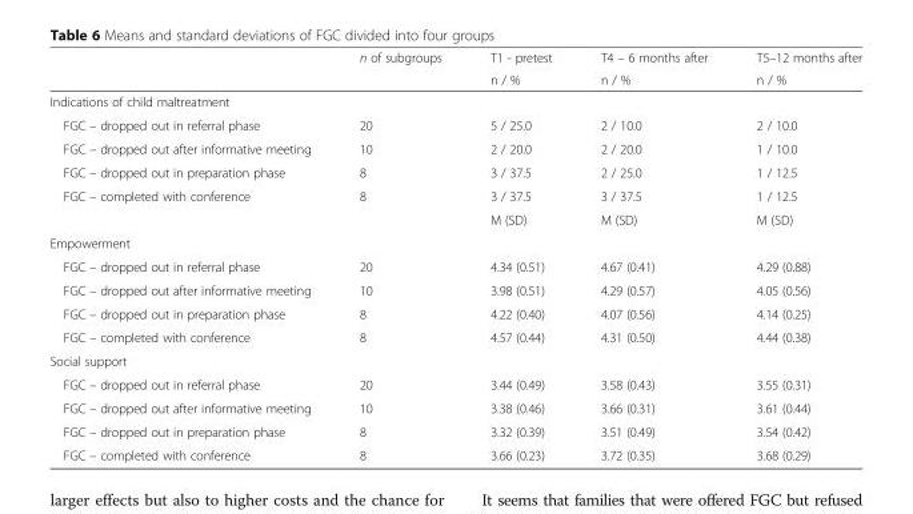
<table><thead><tr><td rowspan="2"></td><td rowspan="2">n of subgroups</td><td rowspan="2">T1 - pretest n / %</td><td rowspan="2">T4 – 6 months after n / %</td><td rowspan="2">T5–12 months after n / %</td></tr><tr></tr></thead><tbody><tr><td colspan="5">Indications of child maltreatment</td></tr><tr><td>FGC – dropped out in referral phase</td><td>20</td><td>5 / 25.0</td><td>2 / 10.0</td><td>2 / 10.0</td></tr><tr><td>FGC – dropped out after informative meeting</td><td>10</td><td>2 / 20.0</td><td>2 / 20.0</td><td>1 / 10.0</td></tr><tr><td>FGC – dropped out in preparation phase</td><td>8</td><td>3 / 37.5</td><td>2 / 25.0</td><td>1 / 12.5</td></tr><tr><td rowspan="2">FGC – completed with conference</td><td>8</td><td>3 / 37.5</td><td>3 / 37.5</td><td>1 / 12.5</td></tr><tr><td></td><td>M (SD)</td><td>M (SD)</td><td>M (SD)</td></tr><tr><td colspan="5">Empowerment</td></tr><tr><td>FGC – dropped out in referral phase</td><td>20</td><td>4.34 (0.51)</td><td>4.67 (0.41)</td><td>4.29 (0.88)</td></tr><tr><td>FGC – dropped out after informative meeting</td><td>10</td><td>3.98 (0.51)</td><td>4.29 (0.57)</td><td>4.05 (0.56)</td></tr><tr><td>FGC – dropped out in preparation phase</td><td>8</td><td>4.22 (0.40)</td><td>4.07 (0.56)</td><td>4.14 (0.25)</td></tr><tr><td>FGC – completed with conference</td><td>8</td><td>4.57 (0.44)</td><td>4.31 (0.50)</td><td>4.44 (0.38)</td></tr><tr><td colspan="5">Social support</td></tr><tr><td>FGC – dropped out in referral phase</td><td>20</td><td>3.44 (0.49)</td><td>3.58 (0.43)</td><td>3.55 (0.31)</td></tr><tr><td>FGC – dropped out after informative meeting</td><td>10</td><td>3.38 (0.46)</td><td>3.66 (0.31)</td><td>3.61 (0.44)</td></tr><tr><td>FGC – dropped out in preparation phase</td><td>8</td><td>3.32 (0.39)</td><td>3.51 (0.49)</td><td>3.54 (0.42)</td></tr><tr><td>FGC – completed with conference</td><td>8</td><td>3.66 (0.23)</td><td>3.72 (0.35)</td><td>3.68 (0.29)</td></tr></tbody></table>